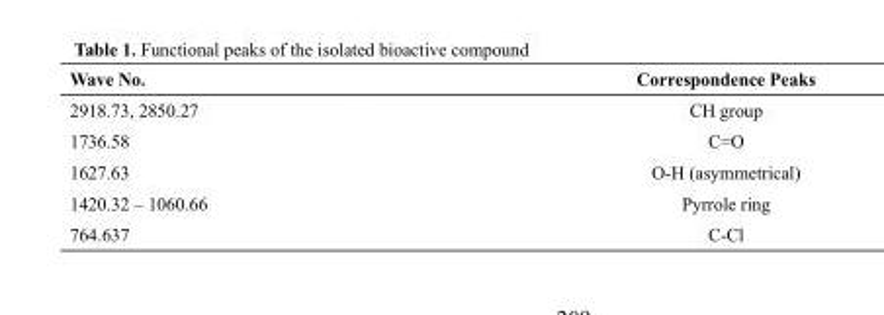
<table><thead><tr><td>Wave No.</td><td>Correspondence Peaks</td></tr></thead><tbody><tr><td>2918.73, 2850.27</td><td>CH group</td></tr><tr><td>1736.58</td><td>C=O</td></tr><tr><td>1627.63</td><td>O-H (asymmetrical)</td></tr><tr><td>1420.32 – 1060.66</td><td>Pyrrole ring</td></tr><tr><td>764.637</td><td>C-Cl</td></tr></tbody></table>